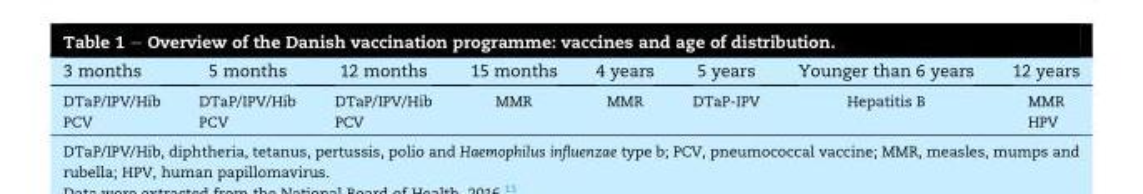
<table><thead><tr><td>3 months</td><td>5 months</td><td>12 months</td><td>15 months</td><td>4 years</td><td>5 years</td><td>Younger than 6 years</td><td>12 years</td></tr></thead><tbody><tr><td>DTaP/IPV/Hib</td><td>DTaP/IPV/Hib</td><td>DTaP/IPV/Hib</td><td>MMR</td><td>MMR</td><td>DTaP-IPV</td><td>Hepatitis B</td><td>MMR</td></tr><tr><td>PCV</td><td>PCV</td><td>PCV</td><td></td><td></td><td></td><td></td><td>HPV</td></tr></tbody></table>